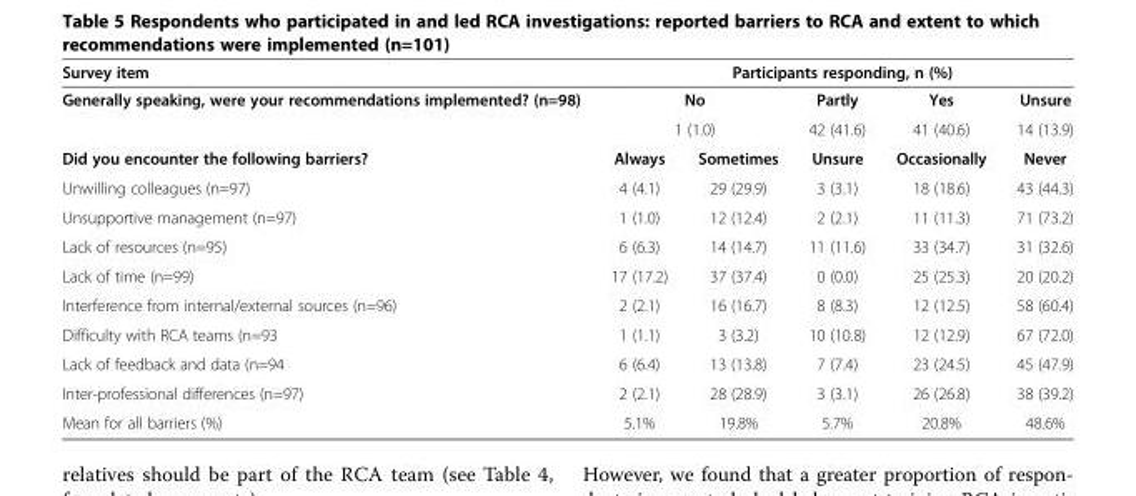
<table><thead><tr><td rowspan="4">Survey item Generally speaking, were your recommendations implemented? (n=98) Did you encounter the following barriers?</td><td colspan="5">Participants responding, n (%)</td></tr><tr><td rowspan="2" colspan="2">No 1 (1.0)</td><td rowspan="3">Partly 42 (41.6) Unsure</td><td rowspan="3">Yes 41 (40.6) Occasionally</td><td rowspan="3">Unsure 14 (13.9) Never</td></tr><tr></tr><tr><td>Always</td><td>Sometimes</td></tr></thead><tbody><tr><td>Unwilling colleagues (n=97)</td><td>4 (4.1)</td><td>29 (29.9)</td><td>3 (3.1)</td><td>18 (18.6)</td><td>43 (44.3)</td></tr><tr><td>Unsupportive management (n=97)</td><td>1 (1.0)</td><td>12 (12.4)</td><td>2 (2.1)</td><td>11 (11.3)</td><td>71 (73.2)</td></tr><tr><td>Lack of resources (n=95)</td><td>6 (6.3)</td><td>14 (14.7)</td><td>11 (11.6)</td><td>33 (34.7)</td><td>31 (32.6)</td></tr><tr><td>Lack of time (n=99)</td><td>17 (17.2)</td><td>37 (37.4)</td><td>0 (0.0)</td><td>25 (25.3)</td><td>20 (20.2)</td></tr><tr><td>Interference from internal/external sources (n=96)</td><td>2 (2.1)</td><td>16 (16.7)</td><td>8 (8.3)</td><td>12 (12.5)</td><td>58 (60.4)</td></tr><tr><td>Difficulty with RCA teams (n=93</td><td>1 (1.1)</td><td>3 (3.2)</td><td>10 (10.8)</td><td>12 (12.9)</td><td>67 (72.0)</td></tr><tr><td>Lack of feedback and data (n=94</td><td>6 (6.4)</td><td>13 (13.8)</td><td>7 (7.4)</td><td>23 (24.5)</td><td>45 (47.9)</td></tr><tr><td>Inter-professional differences (n=97)</td><td>2 (2.1)</td><td>28 (28.9)</td><td>3 (3.1)</td><td>26 (26.8)</td><td>38 (39.2)</td></tr><tr><td>Mean for all barriers (%)</td><td>5.1%</td><td>19.8%</td><td>5.7%</td><td>20.8%</td><td>48.6%</td></tr></tbody></table>